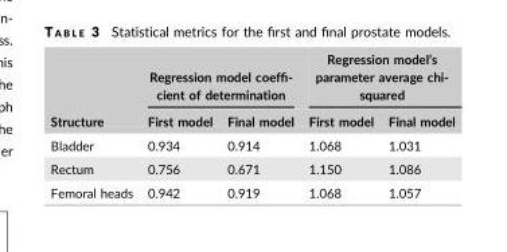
<table><thead><tr><td rowspan="2">Structure</td><td colspan="2">Regression model coeffi- cient of determination</td><td colspan="2">Regression model’s parameter average chi- squared</td></tr><tr><td>First model</td><td>Final model</td><td>First model</td><td>Final model</td></tr></thead><tbody><tr><td>Bladder</td><td>0.934</td><td>0.914</td><td>1.068</td><td>1.031</td></tr><tr><td>Rectum</td><td>0.756</td><td>0.671</td><td>1.150</td><td>1.086</td></tr><tr><td>Femoral heads</td><td>0.942</td><td>0.919</td><td>1.068</td><td>1.057</td></tr></tbody></table>